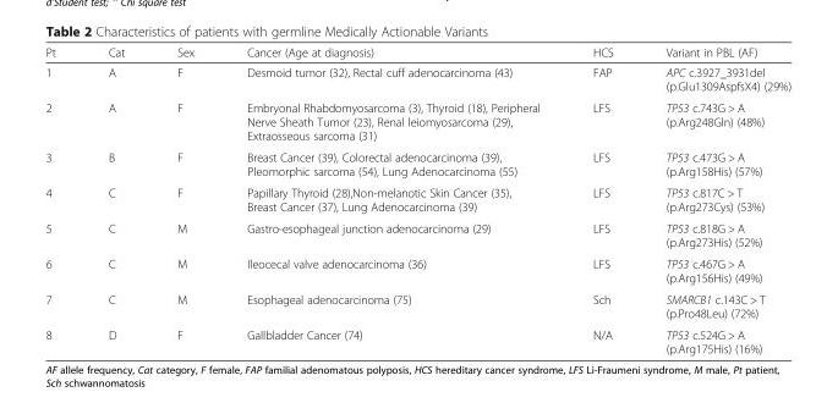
<table><thead><tr><td>Pt</td><td>Cat</td><td>Sex</td><td>Cancer (Age at diagnosis)</td><td>HCS</td><td>Variant in PBL (AF)</td></tr></thead><tbody><tr><td>1</td><td>A</td><td>F</td><td>Desmoid tumor (32), Rectal cuff adenocarcinoma (43)</td><td>FAP</td><td>APC c.3927_3931del (p.Glu1309AspfsX4) (29%)</td></tr><tr><td>2</td><td>A</td><td>F</td><td>Embryonal Rhabdomyosarcoma (3), Thyroid (18), Peripheral Nerve Sheath Tumor (23), Renal leiomyosarcoma (29), Extraosseous sarcoma (31)</td><td>LFS</td><td>TP53 c.743G &gt; A (p.Arg248Gln) (48%)</td></tr><tr><td>3</td><td>B</td><td>F</td><td>Breast Cancer (39), Colorectal adenocarcinoma (39), Pleomorphic sarcoma (54), Lung Adenocarcinoma (55)</td><td>LFS</td><td>TP53 c.473G &gt; A (p.Arg158His) (57%)</td></tr><tr><td>4</td><td>C</td><td>F</td><td>Papillary Thyroid (28),Non-melanotic Skin Cancer (35), Breast Cancer (37), Lung Adenocarcinoma (39)</td><td>LFS</td><td>TP53 c.817C &gt; T (p.Arg273Cys) (53%)</td></tr><tr><td>5</td><td>C</td><td>M</td><td>Gastro-esophageal junction adenocarcinoma (29)</td><td>LFS</td><td>TP53 c.818G &gt; A (p.Arg273His) (52%)</td></tr><tr><td>6</td><td>C</td><td>M</td><td>Ileocecal valve adenocarcinoma (36)</td><td>LFS</td><td>TP53 c.467G &gt; A (p.Arg156His) (49%)</td></tr><tr><td>7</td><td>C</td><td>M</td><td>Esophageal adenocarcinoma (75)</td><td>Sch</td><td>SMARCB1 c.143C &gt; T (p.Pro48Leu) (72%)</td></tr><tr><td>8</td><td>D</td><td>F</td><td>Gallbladder Cancer (74)</td><td>N/A</td><td>TP53 c.524G &gt; A (p.Arg175His) (16%)</td></tr></tbody></table>